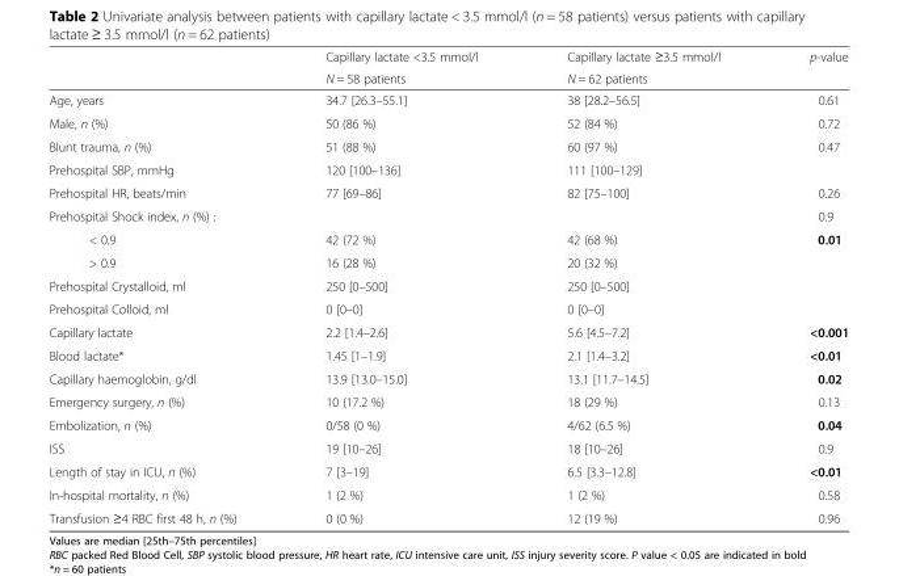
<table><thead><tr><td rowspan="2"></td><td rowspan="2">Capillary lactate &lt;3.5 mmol/l N = 58 patients</td><td rowspan="2">Capillary lactate ≥3.5 mmol/l N = 62 patients</td><td rowspan="2">p-value</td></tr><tr></tr></thead><tbody><tr><td>Age, years</td><td>34.7 [26.3–55.1]</td><td>38 [28.2–56.5]</td><td>0.61</td></tr><tr><td>Male, n (%)</td><td>50 (86 %)</td><td>52 (84 %)</td><td>0.72</td></tr><tr><td>Blunt trauma, n (%)</td><td>51 (88 %)</td><td>60 (97 %)</td><td>0.47</td></tr><tr><td>Prehospital SBP, mmHg</td><td>120 [100–136]</td><td>111 [100–129]</td><td></td></tr><tr><td>Prehospital HR, beats/min</td><td>77 [69–86]</td><td>82 [75–100]</td><td>0.26</td></tr><tr><td>Prehospital Shock index, n (%) :</td><td></td><td></td><td>0.9</td></tr><tr><td>&lt; 0.9</td><td>42 (72 %)</td><td>42 (68 %)</td><td>0.01</td></tr><tr><td>&gt; 0.9</td><td>16 (28 %)</td><td>20 (32 %)</td><td></td></tr><tr><td>Prehospital Crystalloid, ml</td><td>250 [0–500]</td><td>250 [0–500]</td><td></td></tr><tr><td>Prehospital Colloid, ml</td><td>0 [0–0]</td><td>0 [0–0]</td><td></td></tr><tr><td>Capillary lactate</td><td>2.2 [1.4–2.6]</td><td>5.6 [4.5–7.2]</td><td>&lt;0.001</td></tr><tr><td>Blood lactate*</td><td>1.45 [1–1.9]</td><td>2.1 [1.4–3.2]</td><td>&lt;0.01</td></tr><tr><td>Capillary haemoglobin, g/dl</td><td>13.9 [13.0–15.0]</td><td>13.1 [11.7–14.5]</td><td>0.02</td></tr><tr><td>Emergency surgery, n (%)</td><td>10 (17.2 %)</td><td>18 (29 %)</td><td>0.13</td></tr><tr><td>Embolization, n (%)</td><td>0/58 (0 %)</td><td>4/62 (6.5 %)</td><td>0.04</td></tr><tr><td>ISS</td><td>19 [10–26]</td><td>18 [10–26]</td><td>0.9</td></tr><tr><td>Length of stay in ICU, n (%)</td><td>7 [3–19]</td><td>6.5 [3.3–12.8]</td><td>&lt;0.01</td></tr><tr><td>In-hospital mortality, n (%)</td><td>1 (2 %)</td><td>1 (2 %)</td><td>0.58</td></tr><tr><td>Transfusion ≥4 RBC first 48 h, n (%)</td><td>0 (0 %)</td><td>12 (19 %)</td><td>0.96</td></tr></tbody></table>